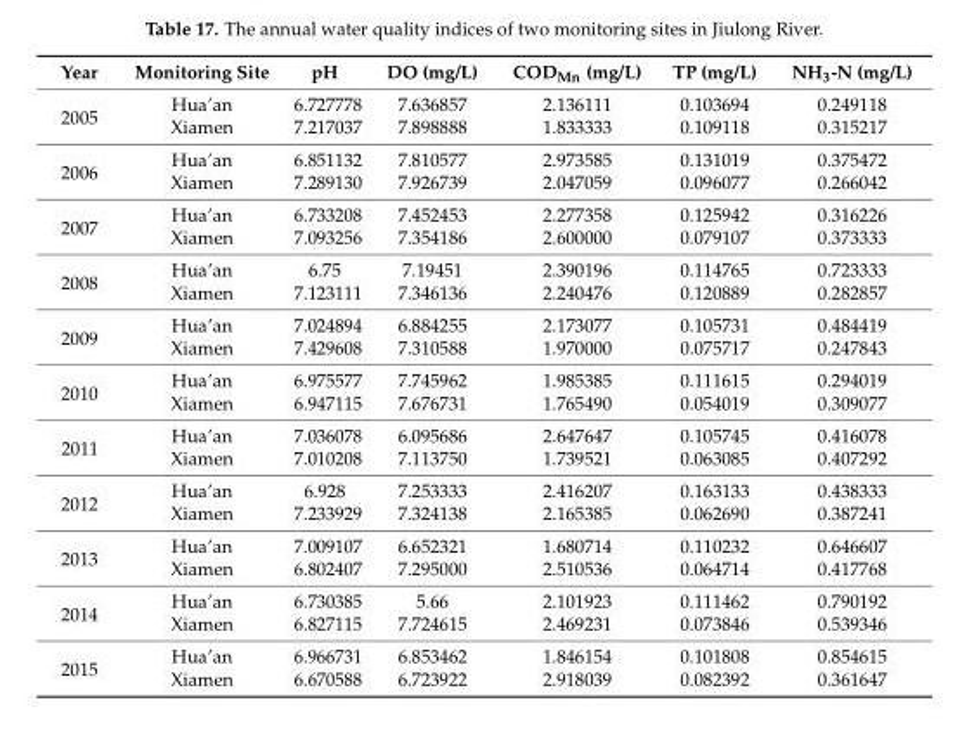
<table><thead><tr><td>Year</td><td>Monitoring Site</td><td>pH</td><td>DO (mg/L)</td><td>COD<sub>Mn</sub> (mg/L)</td><td>TP (mg/L)</td><td>NH<sub>3</sub>-N (mg/L)</td></tr></thead><tbody><tr><td rowspan="2">2005</td><td>Hua’an</td><td>6.727778</td><td>7.636857</td><td>2.136111</td><td>0.103694</td><td>0.249118</td></tr><tr><td>Xiamen</td><td>7.217037</td><td>7.898888</td><td>1.833333</td><td>0.109118</td><td>0.315217</td></tr><tr><td rowspan="2">2006</td><td>Hua’an</td><td>6.851132</td><td>7.810577</td><td>2.973585</td><td>0.131019</td><td>0.375472</td></tr><tr><td>Xiamen</td><td>7.289130</td><td>7.926739</td><td>2.047059</td><td>0.096077</td><td>0.266042</td></tr><tr><td rowspan="2">2007</td><td>Hua’an</td><td>6.733208</td><td>7.452453</td><td>2.277358</td><td>0.125942</td><td>0.316226</td></tr><tr><td>Xiamen</td><td>7.093256</td><td>7.354186</td><td>2.600000</td><td>0.079107</td><td>0.373333</td></tr><tr><td rowspan="2">2008</td><td>Hua’an</td><td>6.75</td><td>7.19451</td><td>2.390196</td><td>0.114765</td><td>0.723333</td></tr><tr><td>Xiamen</td><td>7.123111</td><td>7.346136</td><td>2.240476</td><td>0.120889</td><td>0.282857</td></tr><tr><td rowspan="2">2009</td><td>Hua’an</td><td>7.024894</td><td>6.884255</td><td>2.173077</td><td>0.105731</td><td>0.484419</td></tr><tr><td>Xiamen</td><td>7.429608</td><td>7.310588</td><td>1.970000</td><td>0.075717</td><td>0.247843</td></tr><tr><td rowspan="2">2010</td><td>Hua’an</td><td>6.975577</td><td>7.745962</td><td>1.985385</td><td>0.111615</td><td>0.294019</td></tr><tr><td>Xiamen</td><td>6.947115</td><td>7.676731</td><td>1.765490</td><td>0.054019</td><td>0.309077</td></tr><tr><td rowspan="2">2011</td><td>Hua’an</td><td>7.036078</td><td>6.095686</td><td>2.647647</td><td>0.105745</td><td>0.416078</td></tr><tr><td>Xiamen</td><td>7.010208</td><td>7.113750</td><td>1.739521</td><td>0.063085</td><td>0.407292</td></tr><tr><td rowspan="2">2012</td><td>Hua’an</td><td>6.928</td><td>7.253333</td><td>2.416207</td><td>0.163133</td><td>0.438333</td></tr><tr><td>Xiamen</td><td>7.233929</td><td>7.324138</td><td>2.165385</td><td>0.062690</td><td>0.387241</td></tr><tr><td rowspan="2">2013</td><td>Hua’an</td><td>7.009107</td><td>6.652321</td><td>1.680714</td><td>0.110232</td><td>0.646607</td></tr><tr><td>Xiamen</td><td>6.802407</td><td>7.295000</td><td>2.510536</td><td>0.064714</td><td>0.417768</td></tr><tr><td rowspan="2">2014</td><td>Hua’an</td><td>6.730385</td><td>5.66</td><td>2.101923</td><td>0.111462</td><td>0.790192</td></tr><tr><td>Xiamen</td><td>6.827115</td><td>7.724615</td><td>2.469231</td><td>0.073846</td><td>0.539346</td></tr><tr><td rowspan="2">2015</td><td>Hua’an</td><td>6.966731</td><td>6.853462</td><td>1.846154</td><td>0.101808</td><td>0.854615</td></tr><tr><td>Xiamen</td><td>6.670588</td><td>6.723922</td><td>2.918039</td><td>0.082392</td><td>0.361647</td></tr></tbody></table>